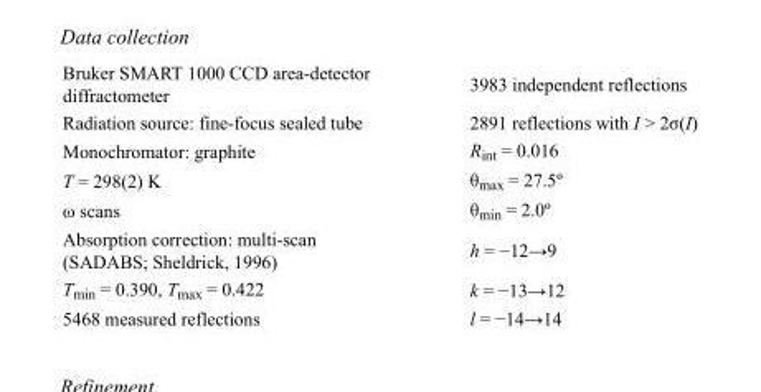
<table><tbody><tr><td>Bruker SMART 1000 CCD area-detector diffractometer</td><td>3983 independent reflections</td></tr><tr><td>Radiation source: fine-focus sealed tube</td><td>2891 reflections with I &gt; 2σ(I)</td></tr><tr><td>Monochromator: graphite</td><td>R<sub>int</sub> = 0.016</td></tr><tr><td>T = 298(2) K</td><td>θ<sub>max</sub> = 27.5º</td></tr><tr><td>ω scans</td><td>θ<sub>min</sub> = 2.0º</td></tr><tr><td>Absorption correction: multi-scan (SADABS; Sheldrick, 1996)</td><td>h = −12→9</td></tr><tr><td>T<sub>min</sub> = 0.390, T<sub>max</sub> = 0.422</td><td>k = −13→12</td></tr><tr><td>5468 measured reflections</td><td>l = −14→14</td></tr></tbody></table>